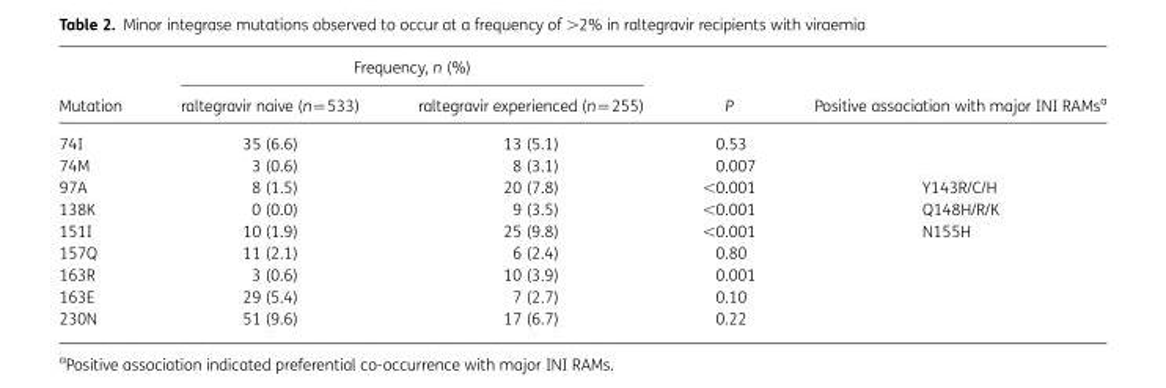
<table><thead><tr><td rowspan="2">Mutation</td><td colspan="2">Frequency, n (%)</td><td rowspan="2">P</td><td rowspan="2">Positive association with major INI RAMs<sup>a</sup></td></tr><tr><td>raltegravir naive (n=533)</td><td>raltegravir experienced (n=255)</td></tr></thead><tbody><tr><td>74I</td><td>35 (6.6)</td><td>13 (5.1)</td><td>0.53</td><td></td></tr><tr><td>74M</td><td>3 (0.6)</td><td>8 (3.1)</td><td>0.007</td><td></td></tr><tr><td>97A</td><td>8 (1.5)</td><td>20 (7.8)</td><td>&lt;0.001</td><td>Y143R/C/H</td></tr><tr><td>138K</td><td>0 (0.0)</td><td>9 (3.5)</td><td>&lt;0.001</td><td>Q148H/R/K</td></tr><tr><td>151I</td><td>10 (1.9)</td><td>25 (9.8)</td><td>&lt;0.001</td><td>N155H</td></tr><tr><td>157Q</td><td>11 (2.1)</td><td>6 (2.4)</td><td>0.80</td><td></td></tr><tr><td>163R</td><td>3 (0.6)</td><td>10 (3.9)</td><td>0.001</td><td></td></tr><tr><td>163E</td><td>29 (5.4)</td><td>7 (2.7)</td><td>0.10</td><td></td></tr><tr><td>230N</td><td>51 (9.6)</td><td>17 (6.7)</td><td>0.22</td><td></td></tr></tbody></table>